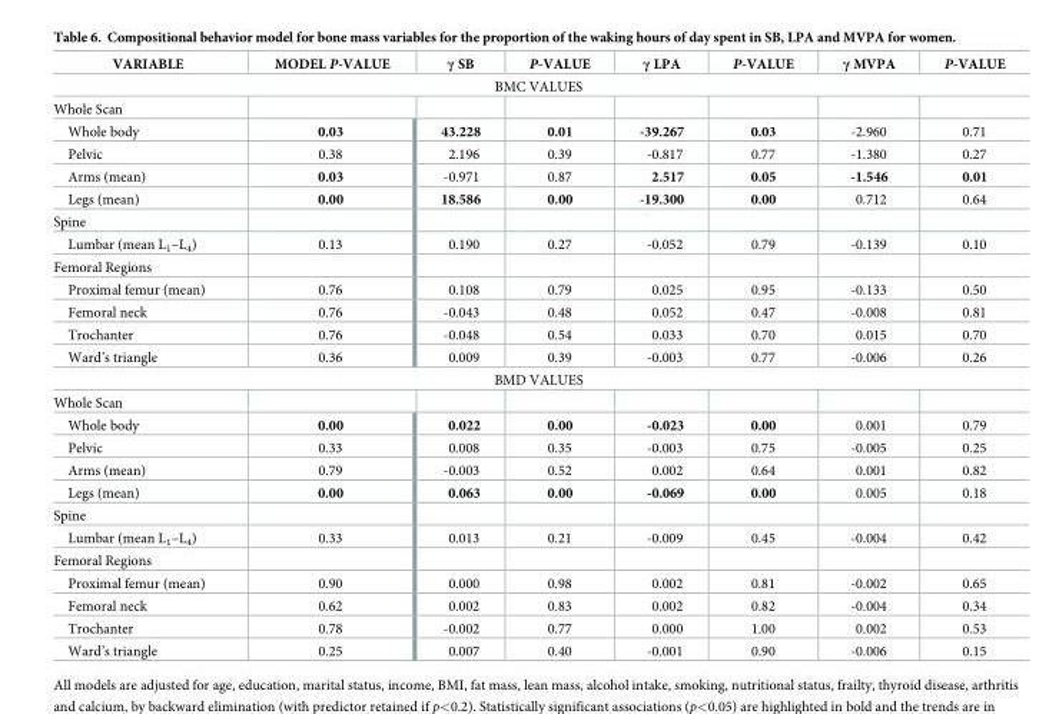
<table><thead><tr><td>VARIABLE</td><td>MODEL P-VALUE</td><td>γ SB</td><td>P-VALUE</td><td>γ LPA</td><td>P-VALUE</td><td>γ MVPA</td><td>P-VALUE</td></tr></thead><tbody><tr><td colspan="8">BMC VALUES</td></tr><tr><td colspan="8">Whole Scan</td></tr><tr><td>Whole body</td><td>0.03</td><td>43.228</td><td>0.01</td><td>-39.267</td><td>0.03</td><td>-2.960</td><td>0.71</td></tr><tr><td>Pelvic</td><td>0.38</td><td>2.196</td><td>0.39</td><td>-0.817</td><td>0.77</td><td>-1.380</td><td>0.27</td></tr><tr><td>Arms (mean)</td><td>0.03</td><td>-0.971</td><td>0.87</td><td>2.517</td><td>0.05</td><td>-1.546</td><td>0.01</td></tr><tr><td>Legs (mean)</td><td>0.00</td><td>18.586</td><td>0.00</td><td>-19.300</td><td>0.00</td><td>0.712</td><td>0.64</td></tr><tr><td colspan="8">Spine</td></tr><tr><td>Lumbar (mean L<sub>1</sub>–L<sub>4</sub>)</td><td>0.13</td><td>0.190</td><td>0.27</td><td>-0.052</td><td>0.79</td><td>-0.139</td><td>0.10</td></tr><tr><td colspan="8">Femoral Regions</td></tr><tr><td>Proximal femur (mean)</td><td>0.76</td><td>0.108</td><td>0.79</td><td>0.025</td><td>0.95</td><td>-0.133</td><td>0.50</td></tr><tr><td>Femoral neck</td><td>0.76</td><td>-0.043</td><td>0.48</td><td>0.052</td><td>0.47</td><td>-0.008</td><td>0.81</td></tr><tr><td>Trochanter</td><td>0.76</td><td>-0.048</td><td>0.54</td><td>0.033</td><td>0.70</td><td>0.015</td><td>0.70</td></tr><tr><td>Ward’s triangle</td><td>0.36</td><td>0.009</td><td>0.39</td><td>-0.003</td><td>0.77</td><td>-0.006</td><td>0.26</td></tr><tr><td colspan="8">BMD VALUES</td></tr><tr><td colspan="8">Whole Scan</td></tr><tr><td>Whole body</td><td>0.00</td><td>0.022</td><td>0.00</td><td>-0.023</td><td>0.00</td><td>0.001</td><td>0.79</td></tr><tr><td>Pelvic</td><td>0.33</td><td>0.008</td><td>0.35</td><td>-0.003</td><td>0.75</td><td>-0.005</td><td>0.25</td></tr><tr><td>Arms (mean)</td><td>0.79</td><td>-0.003</td><td>0.52</td><td>0.002</td><td>0.64</td><td>0.001</td><td>0.82</td></tr><tr><td>Legs (mean)</td><td>0.00</td><td>0.063</td><td>0.00</td><td>-0.069</td><td>0.00</td><td>0.005</td><td>0.18</td></tr><tr><td colspan="8">Spine</td></tr><tr><td>Lumbar (mean L<sub>1</sub>–L<sub>4</sub>)</td><td>0.33</td><td>0.013</td><td>0.21</td><td>-0.009</td><td>0.45</td><td>-0.004</td><td>0.42</td></tr><tr><td colspan="8">Femoral Regions</td></tr><tr><td>Proximal femur (mean)</td><td>0.90</td><td>0.000</td><td>0.98</td><td>0.002</td><td>0.81</td><td>-0.002</td><td>0.65</td></tr><tr><td>Femoral neck</td><td>0.62</td><td>0.002</td><td>0.83</td><td>0.002</td><td>0.82</td><td>-0.004</td><td>0.34</td></tr><tr><td>Trochanter</td><td>0.78</td><td>-0.002</td><td>0.77</td><td>0.000</td><td>1.00</td><td>0.002</td><td>0.53</td></tr><tr><td>Ward’s triangle</td><td>0.25</td><td>0.007</td><td>0.40</td><td>-0.001</td><td>0.90</td><td>-0.006</td><td>0.15</td></tr></tbody></table>